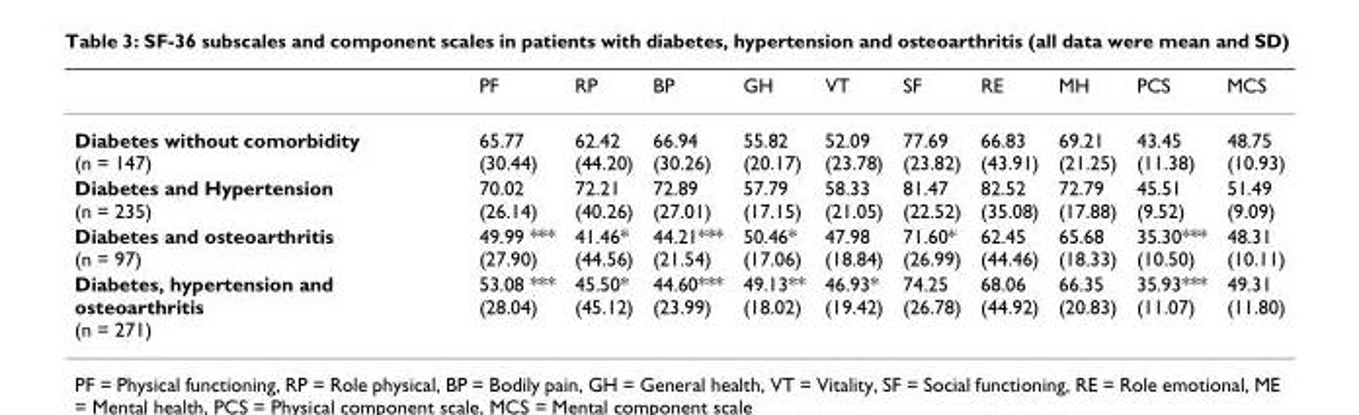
<table><thead><tr><td></td><td>PF</td><td>RP</td><td>BP</td><td>GH</td><td>VT</td><td>SF</td><td>RE</td><td>MH</td><td>PCS</td><td>MCS</td></tr></thead><tbody><tr><td>Diabetes without comorbidity (n = 147)</td><td>65.77 (30.44)</td><td>62.42 (44.20)</td><td>66.94 (30.26)</td><td>55.82 (20.17)</td><td>52.09 (23.78)</td><td>77.69 (23.82)</td><td>66.83 (43.91)</td><td>69.21 (21.25)</td><td>43.45 (11.38)</td><td>48.75 (10.93)</td></tr><tr><td>Diabetes and Hypertension (n = 235)</td><td>70.02 (26.14)</td><td>72.21 (40.26)</td><td>72.89 (27.01)</td><td>57.79 (17.15)</td><td>58.33 (21.05)</td><td>81.47 (22.52)</td><td>82.52 (35.08)</td><td>72.79 (17.88)</td><td>45.51 (9.52)</td><td>51.49 (9.09)</td></tr><tr><td>Diabetes and osteoarthritis (n = 97)</td><td>49.99 *** (27.90)</td><td>41.46* (44.56)</td><td>44.21*** (21.54)</td><td>50.46* (17.06)</td><td>47.98 (18.84)</td><td>71.60* (26.99)</td><td>62.45 (44.46)</td><td>65.68 (18.33)</td><td>35.30*** (10.50)</td><td>48.31 (10.11)</td></tr><tr><td>Diabetes, hypertension and osteoarthritis (n = 271)</td><td>53.08 *** (28.04)</td><td>45.50* (45.12)</td><td>44.60*** (23.99)</td><td>49.13** (18.02)</td><td>46.93* (19.42)</td><td>74.25 (26.78)</td><td>68.06 (44.92)</td><td>66.35 (20.83)</td><td>35.93*** (11.07)</td><td>49.31 (11.80)</td></tr></tbody></table>